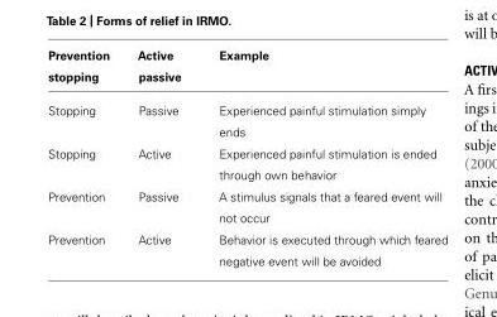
<table><thead><tr><td>Prevention stopping</td><td>Active passive</td><td>Example</td></tr></thead><tbody><tr><td>Stopping</td><td>Passive</td><td>Experienced painful stimulation simply ends</td></tr><tr><td>Stopping</td><td>Active</td><td>Experienced painful stimulation is ended through own behavior</td></tr><tr><td>Prevention</td><td>Passive</td><td>A stimulus signals that a feared event will not occur</td></tr><tr><td>Prevention</td><td>Active</td><td>Behavior is executed through which feared negative event will be avoided</td></tr></tbody></table>